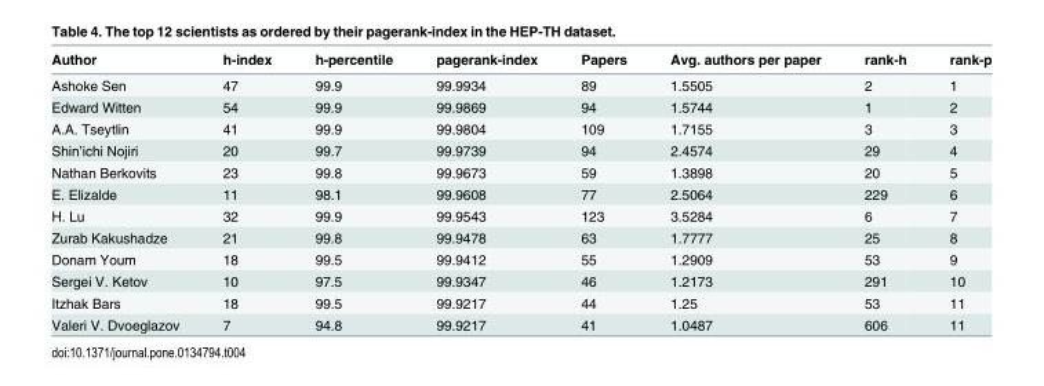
<table><thead><tr><td>Author</td><td>h-index</td><td>h-percentile</td><td>pagerank-index</td><td>Papers</td><td>Avg. authors per paper</td><td>rank-h</td><td>rank-p</td></tr></thead><tbody><tr><td>Ashoke Sen</td><td>47</td><td>99.9</td><td>99.9934</td><td>89</td><td>1.5505</td><td>2</td><td>1</td></tr><tr><td>Edward Witten</td><td>54</td><td>99.9</td><td>99.9869</td><td>94</td><td>1.5744</td><td>1</td><td>2</td></tr><tr><td>A.A. Tseytlin</td><td>41</td><td>99.9</td><td>99.9804</td><td>109</td><td>1.7155</td><td>3</td><td>3</td></tr><tr><td>Shin’ichi Nojiri</td><td>20</td><td>99.7</td><td>99.9739</td><td>94</td><td>2.4574</td><td>29</td><td>4</td></tr><tr><td>Nathan Berkovits</td><td>23</td><td>99.8</td><td>99.9673</td><td>59</td><td>1.3898</td><td>20</td><td>5</td></tr><tr><td>E. Elizalde</td><td>11</td><td>98.1</td><td>99.9608</td><td>77</td><td>2.5064</td><td>229</td><td>6</td></tr><tr><td>H. Lu</td><td>32</td><td>99.9</td><td>99.9543</td><td>123</td><td>3.5284</td><td>6</td><td>7</td></tr><tr><td>Zurab Kakushadze</td><td>21</td><td>99.8</td><td>99.9478</td><td>63</td><td>1.7777</td><td>25</td><td>8</td></tr><tr><td>Donam Youm</td><td>18</td><td>99.5</td><td>99.9412</td><td>55</td><td>1.2909</td><td>53</td><td>9</td></tr><tr><td>Sergei V. Ketov</td><td>10</td><td>97.5</td><td>99.9347</td><td>46</td><td>1.2173</td><td>291</td><td>10</td></tr><tr><td>Itzhak Bars</td><td>18</td><td>99.5</td><td>99.9217</td><td>44</td><td>1.25</td><td>53</td><td>11</td></tr><tr><td>Valeri V. Dvoeglazov</td><td>7</td><td>94.8</td><td>99.9217</td><td>41</td><td>1.0487</td><td>606</td><td>11</td></tr></tbody></table>